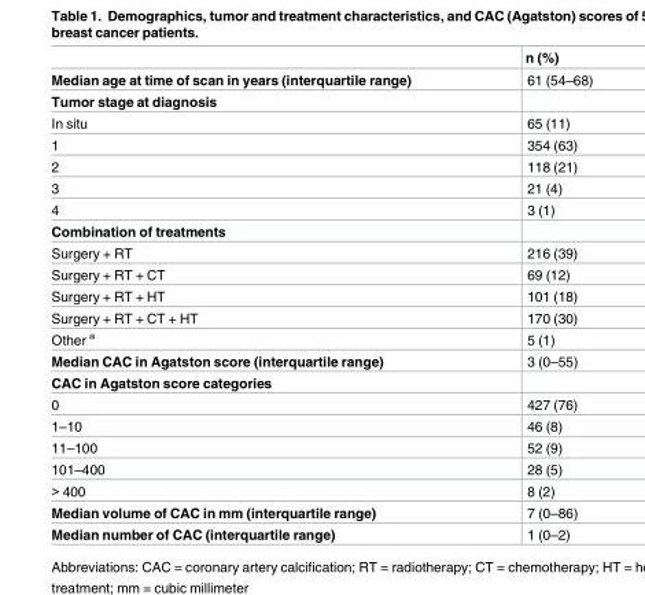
<table><thead><tr><td></td><td>n (%)</td></tr></thead><tbody><tr><td>Median age at time of scan in years (interquartile range)</td><td>61 (54–68)</td></tr><tr><td colspan="2">Tumor stage at diagnosis</td></tr><tr><td>In situ</td><td>65 (11)</td></tr><tr><td>1</td><td>354 (63)</td></tr><tr><td>2</td><td>118 (21)</td></tr><tr><td>3</td><td>21 (4)</td></tr><tr><td>4</td><td>3 (1)</td></tr><tr><td colspan="2">Combination of treatments</td></tr><tr><td>Surgery + RT</td><td>216 (39)</td></tr><tr><td>Surgery + RT + CT</td><td>69 (12)</td></tr><tr><td>Surgery + RT + HT</td><td>101 (18)</td></tr><tr><td>Surgery + RT + CT + HT</td><td>170 (30)</td></tr><tr><td>Other <sup>a</sup></td><td>5 (1)</td></tr><tr><td>Median CAC in Agatston score (interquartile range)</td><td>3 (0–55)</td></tr><tr><td colspan="2">CAC in Agatston score categories</td></tr><tr><td>0</td><td>427 (76)</td></tr><tr><td>1–10</td><td>46 (8)</td></tr><tr><td>11–100</td><td>52 (9)</td></tr><tr><td>101–400</td><td>28 (5)</td></tr><tr><td>&gt; 400</td><td>8 (2)</td></tr><tr><td>Median volume of CAC in mm (interquartile range)</td><td>7 (0–86)</td></tr><tr><td>Median number of CAC (interquartile range)</td><td>1 (0–2)</td></tr></tbody></table>